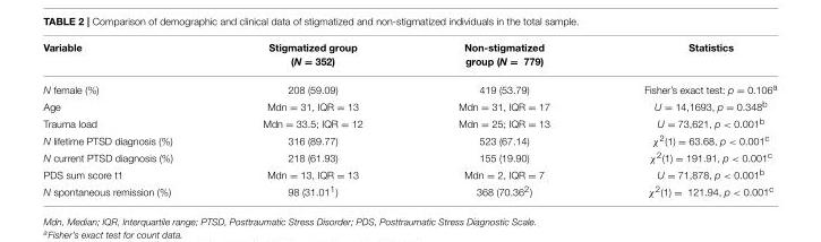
<table><thead><tr><td>Variable</td><td>Stigmatized group (N = 352)</td><td>Non-stigmatized group (N = 779)</td><td>Statistics</td></tr></thead><tbody><tr><td>N female (%)</td><td>208 (59.09)</td><td>419 (53.79)</td><td>Fisher’s exact test: p = 0.106<sup>a</sup></td></tr><tr><td>Age</td><td>Mdn = 31, IQR = 13</td><td>Mdn = 31, IQR = 17</td><td>U = 14,1693, p = 0.348<sup>b</sup></td></tr><tr><td>Trauma load</td><td>Mdn = 33.5; IQR = 12</td><td>Mdn = 25; IQR = 13</td><td>U = 73,621, p &lt; 0.001<sup>b</sup></td></tr><tr><td>N lifetime PTSD diagnosis (%)</td><td>316 (89.77)</td><td>523 (67.14)</td><td>χ<sup>2</sup>(1) = 63.68, p &lt; 0.001<sup>c</sup></td></tr><tr><td>N current PTSD diagnosis (%)</td><td>218 (61.93)</td><td>155 (19.90)</td><td>χ<sup>2</sup>(1) = 191.91, p &lt; 0.001<sup>c</sup></td></tr><tr><td>PDS sum score t1</td><td>Mdn = 13, IQR = 13</td><td>Mdn = 2, IQR = 7</td><td>U = 71,878, p &lt; 0.001<sup>b</sup></td></tr><tr><td>N spontaneous remission (%)</td><td>98 (31.01<sup>1</sup>)</td><td>368 (70.36<sup>2</sup>)</td><td>χ<sup>2</sup>(1) = 121.94, p &lt; 0.001<sup>c</sup></td></tr></tbody></table>